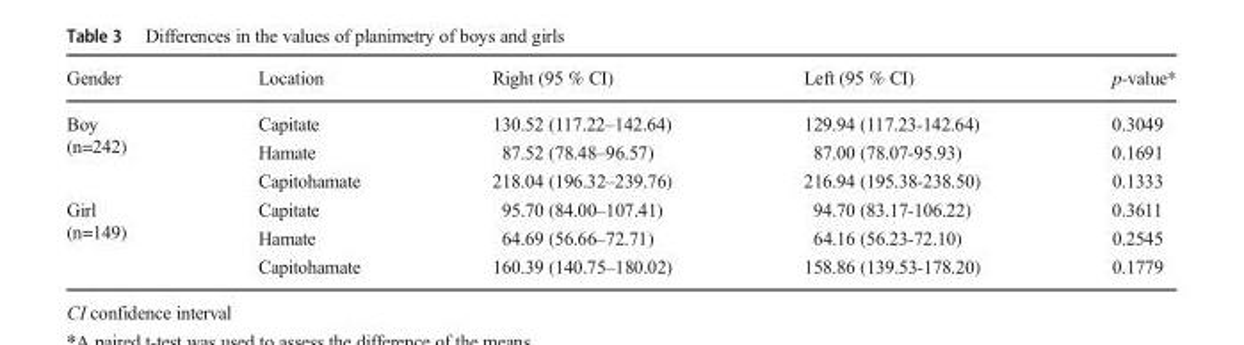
<table><thead><tr><td>Gender</td><td>Location</td><td>Right (95 % CI)</td><td>Left (95 % CI)</td><td>p-value*</td></tr></thead><tbody><tr><td rowspan="3">Boy (n=242)</td><td>Capitate</td><td>130.52 (117.22–142.64)</td><td>129.94 (117.23-142.64)</td><td>0.3049</td></tr><tr><td>Hamate</td><td>87.52 (78.48–96.57)</td><td>87.00 (78.07-95.93)</td><td>0.1691</td></tr><tr><td>Capitohamate</td><td>218.04 (196.32–239.76)</td><td>216.94 (195.38-238.50)</td><td>0.1333</td></tr><tr><td rowspan="3">Girl (n=149)</td><td>Capitate</td><td>95.70 (84.00–107.41)</td><td>94.70 (83.17-106.22)</td><td>0.3611</td></tr><tr><td>Hamate</td><td>64.69 (56.66–72.71)</td><td>64.16 (56.23-72.10)</td><td>0.2545</td></tr><tr><td>Capitohamate</td><td>160.39 (140.75–180.02)</td><td>158.86 (139.53-178.20)</td><td>0.1779</td></tr></tbody></table>